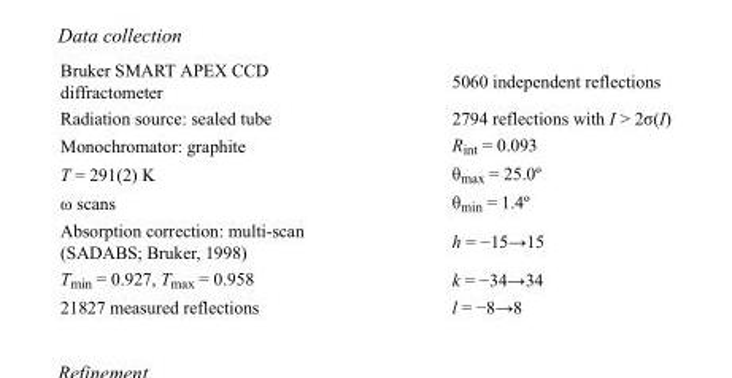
<table><tbody><tr><td>Bruker SMART APEX CCD diffractometer</td><td>5060 independent reflections</td></tr><tr><td>Radiation source: sealed tube</td><td>2794 reflections with I &gt; 2σ(I)</td></tr><tr><td>Monochromator: graphite</td><td>R<sub>int</sub> = 0.093</td></tr><tr><td>T = 291(2) K</td><td>θ<sub>max</sub> = 25.0º</td></tr><tr><td>ω scans</td><td>θ<sub>min</sub> = 1.4º</td></tr><tr><td>Absorption correction: multi-scan (SADABS; Bruker, 1998)</td><td>h = −15→15</td></tr><tr><td>T<sub>min</sub> = 0.927, T<sub>max</sub> = 0.958</td><td>k = −34→34</td></tr><tr><td>21827 measured reflections</td><td>l = −8→8</td></tr></tbody></table>